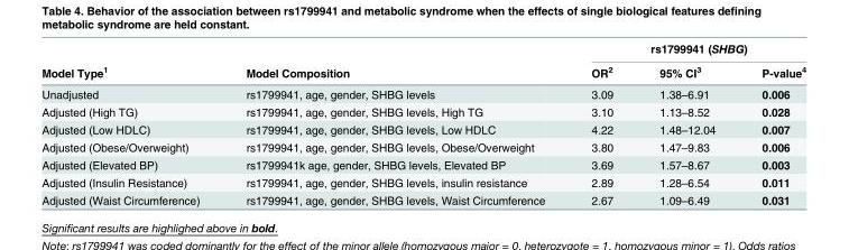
<table><thead><tr><td rowspan="2">Model Type<sup>1</sup></td><td rowspan="2">Model Composition</td><td colspan="3">rs1799941 (SHBG)</td></tr><tr><td>OR<sup>2</sup></td><td>95% CI<sup>3</sup></td><td>P-value<sup>4</sup></td></tr></thead><tbody><tr><td>Unadjusted</td><td>rs1799941, age, gender, SHBG levels</td><td>3.09</td><td>1.38–6.91</td><td>0.006</td></tr><tr><td>Adjusted (High TG)</td><td>rs1799941, age, gender, SHBG levels, High TG</td><td>3.10</td><td>1.13–8.52</td><td>0.028</td></tr><tr><td>Adjusted (Low HDLC)</td><td>rs1799941, age, gender, SHBG levels, Low HDLC</td><td>4.22</td><td>1.48–12.04</td><td>0.007</td></tr><tr><td>Adjusted (Obese/Overweight)</td><td>rs1799941, age, gender, SHBG levels, Obese/Overweight</td><td>3.80</td><td>1.47–9.83</td><td>0.006</td></tr><tr><td>Adjusted (Elevated BP)</td><td>rs1799941k age, gender, SHBG levels, Elevated BP</td><td>3.69</td><td>1.57–8.67</td><td>0.003</td></tr><tr><td>Adjusted (Insulin Resistance)</td><td>rs1799941, age, gender, SHBG levels, insulin resistance</td><td>2.89</td><td>1.28–6.54</td><td>0.011</td></tr><tr><td>Adjusted (Waist Circumference)</td><td>rs1799941, age, gender, SHBG levels, Waist Circumference</td><td>2.67</td><td>1.09–6.49</td><td>0.031</td></tr></tbody></table>